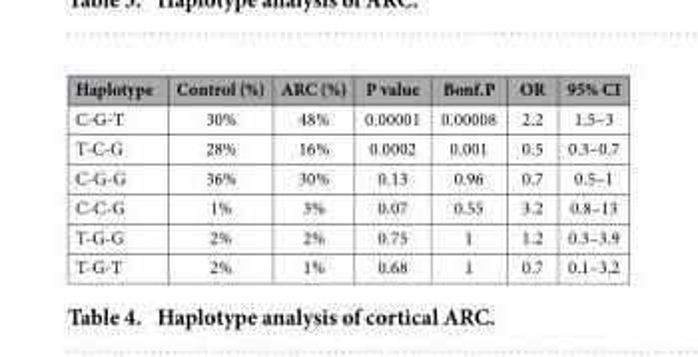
<table><thead><tr><td>Haplotype</td><td>Control (%)</td><td>ARC (%)</td><td>P value</td><td>Bonf.P</td><td>OR</td><td>95% CI</td></tr></thead><tbody><tr><td>C-G-T</td><td>30%</td><td>48%</td><td>0.00001</td><td>0.00008</td><td>2.2</td><td>1.5–3</td></tr><tr><td>T-C-G</td><td>28%</td><td>16%</td><td>0.0002</td><td>0.001</td><td>0.5</td><td>0.3–0.7</td></tr><tr><td>C-G-G</td><td>36%</td><td>30%</td><td>0.13</td><td>0.96</td><td>0.7</td><td>0.5–1</td></tr><tr><td>C-C-G</td><td>1%</td><td>3%</td><td>0.07</td><td>0.55</td><td>3.2</td><td>0.8–13</td></tr><tr><td>T-G-G</td><td>2%</td><td>2%</td><td>0.75</td><td>1</td><td>1.2</td><td>0.3–3.9</td></tr><tr><td>T-G-T</td><td>2%</td><td>1%</td><td>0.68</td><td>1</td><td>0.7</td><td>0.1–3.2</td></tr></tbody></table>